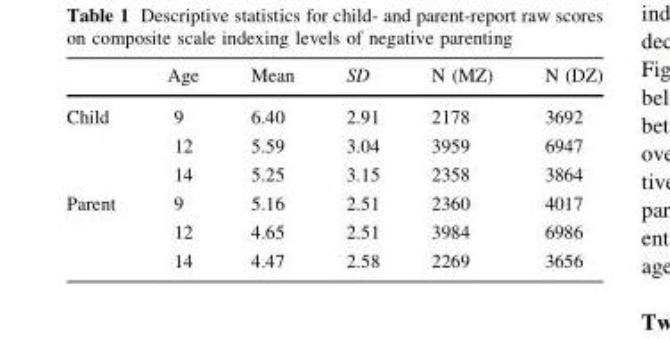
<table><thead><tr><td></td><td>Age</td><td>Mean</td><td>SD</td><td>N (MZ)</td><td>N (DZ)</td></tr></thead><tbody><tr><td rowspan="3">Child</td><td>9</td><td>6.40</td><td>2.91</td><td>2178</td><td>3692</td></tr><tr><td>12</td><td>5.59</td><td>3.04</td><td>3959</td><td>6947</td></tr><tr><td>14</td><td>5.25</td><td>3.15</td><td>2358</td><td>3864</td></tr><tr><td rowspan="3">Parent</td><td>9</td><td>5.16</td><td>2.51</td><td>2360</td><td>4017</td></tr><tr><td>12</td><td>4.65</td><td>2.51</td><td>3984</td><td>6986</td></tr><tr><td>14</td><td>4.47</td><td>2.58</td><td>2269</td><td>3656</td></tr></tbody></table>